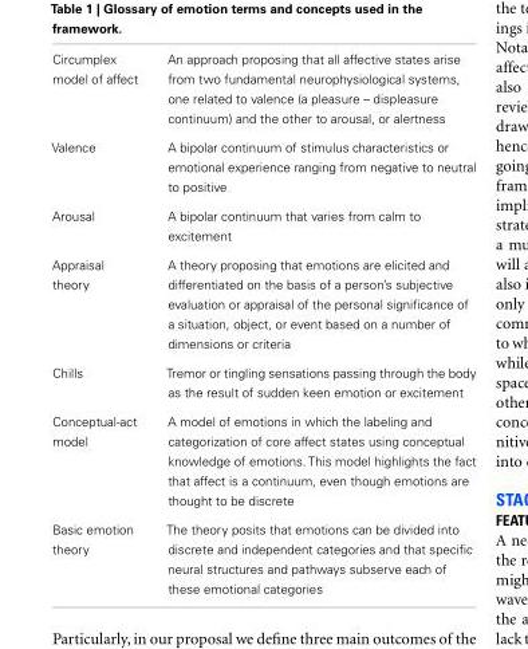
<table><tbody><tr><td>Circumplex model of affect</td><td>An approach proposing that all affective states arise from two fundamental neurophysiological systems, one related to valence (a pleasure – displeasure continuum) and the other to arousal, or alertness</td></tr><tr><td>Valence</td><td>A bipolar continuum of stimulus characteristics or emotional experience ranging from negative to neutral to positive</td></tr><tr><td>Arousal</td><td>A bipolar continuum that varies from calm to excitement</td></tr><tr><td>Appraisal theory</td><td>A theory proposing that emotions are elicited and differentiated on the basis of a person’s subjective evaluation or appraisal of the personal significance of a situation, object, or event based on a number of dimensions or criteria</td></tr><tr><td>Chills</td><td>Tremor or tingling sensations passing through the body as the result of sudden keen emotion or excitement</td></tr><tr><td>Conceptual-act model</td><td>A model of emotions in which the labeling and categorization of core affect states using conceptual knowledge of emotions. This model highlights the fact that affect is a continuum, even though emotions are thought to be discrete</td></tr><tr><td>Basic emotion theory</td><td>The theory posits that emotions can be divided into discrete and independent categories and that specific neural structures and pathways subserve each of these emotional categories</td></tr></tbody></table>